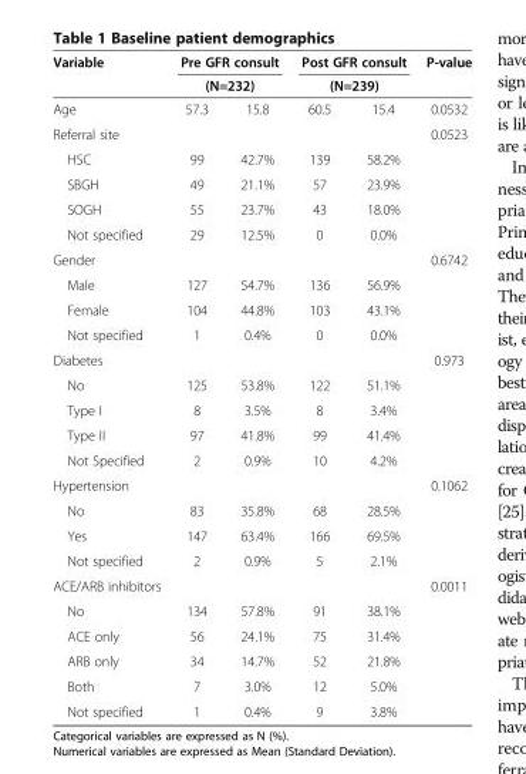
<table><thead><tr><td rowspan="3">Variable Age</td><td rowspan="2" colspan="2">Pre GFR consult (N=232)</td><td rowspan="2" colspan="2">Post GFR consult (N=239)</td><td rowspan="3">P-value 0.0532</td></tr><tr></tr><tr><td>57.3</td><td>15.8</td><td>60.5</td><td>15.4</td></tr></thead><tbody><tr><td>Referral site</td><td></td><td></td><td></td><td></td><td>0.0523</td></tr><tr><td>HSC</td><td>99</td><td>42.7%</td><td>139</td><td>58.2%</td><td rowspan="4"></td></tr><tr><td>SBGH</td><td>49</td><td>21.1%</td><td>57</td><td>23.9%</td></tr><tr><td>SOGH</td><td>55</td><td>23.7%</td><td>43</td><td>18.0%</td></tr><tr><td>Not specified</td><td>29</td><td>12.5%</td><td>0</td><td>0.0%</td></tr><tr><td>Gender</td><td></td><td></td><td></td><td></td><td>0.6742</td></tr><tr><td>Male</td><td>127</td><td>54.7%</td><td>136</td><td>56.9%</td><td rowspan="3"></td></tr><tr><td>Female</td><td>104</td><td>44.8%</td><td>103</td><td>43.1%</td></tr><tr><td>Not specified</td><td>1</td><td>0.4%</td><td>0</td><td>0.0%</td></tr><tr><td>Diabetes</td><td></td><td></td><td></td><td></td><td>0.973</td></tr><tr><td>No</td><td>125</td><td>53.8%</td><td>122</td><td>51.1%</td><td rowspan="4"></td></tr><tr><td>Type I</td><td>8</td><td>3.5%</td><td>8</td><td>3.4%</td></tr><tr><td>Type II</td><td>97</td><td>41.8%</td><td>99</td><td>41.4%</td></tr><tr><td>Not Specified</td><td>2</td><td>0.9%</td><td>10</td><td>4.2%</td></tr><tr><td>Hypertension</td><td></td><td></td><td></td><td></td><td>0.1062</td></tr><tr><td>No</td><td>83</td><td>35.8%</td><td>68</td><td>28.5%</td><td rowspan="3"></td></tr><tr><td>Yes</td><td>147</td><td>63.4%</td><td>166</td><td>69.5%</td></tr><tr><td>Not specified</td><td>2</td><td>0.9%</td><td>5</td><td>2.1%</td></tr><tr><td>ACE/ARB inhibitors</td><td></td><td></td><td></td><td></td><td>0.0011</td></tr><tr><td>No</td><td>134</td><td>57.8%</td><td>91</td><td>38.1%</td><td rowspan="5"></td></tr><tr><td>ACE only</td><td>56</td><td>24.1%</td><td>75</td><td>31.4%</td></tr><tr><td>ARB only</td><td>34</td><td>14.7%</td><td>52</td><td>21.8%</td></tr><tr><td>Both</td><td>7</td><td>3.0%</td><td>12</td><td>5.0%</td></tr><tr><td>Not specified</td><td>1</td><td>0.4%</td><td>9</td><td>3.8%</td></tr></tbody></table>